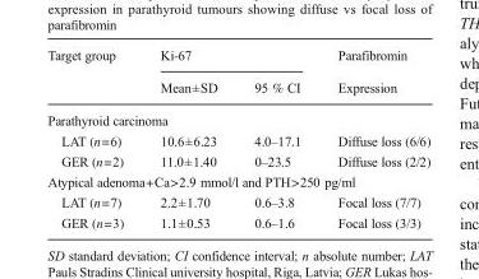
<table><thead><tr><td rowspan="2">Target group</td><td colspan="2">Ki-67</td><td rowspan="2">Parafibromin Expression</td></tr><tr><td>Mean±SD</td><td>95 % CI</td></tr></thead><tbody><tr><td colspan="4">Parathyroid carcinoma</td></tr><tr><td>LAT (n=6)</td><td>10.6±6.23</td><td>4.0–17.1</td><td>Diffuse loss (6/6)</td></tr><tr><td>GER (n=2)</td><td>11.0±1.40</td><td>0–23.5</td><td>Diffuse loss (2/2)</td></tr><tr><td colspan="4">Atypical adenoma+Ca&gt;2.9 mmol/l and PTH&gt;250 pg/ml</td></tr><tr><td>LAT (n=7)</td><td>2.2±1.70</td><td>0.6–3.8</td><td>Focal loss (7/7)</td></tr><tr><td>GER (n=3)</td><td>1.1±0.53</td><td>0.6–1.6</td><td>Focal loss (3/3)</td></tr></tbody></table>